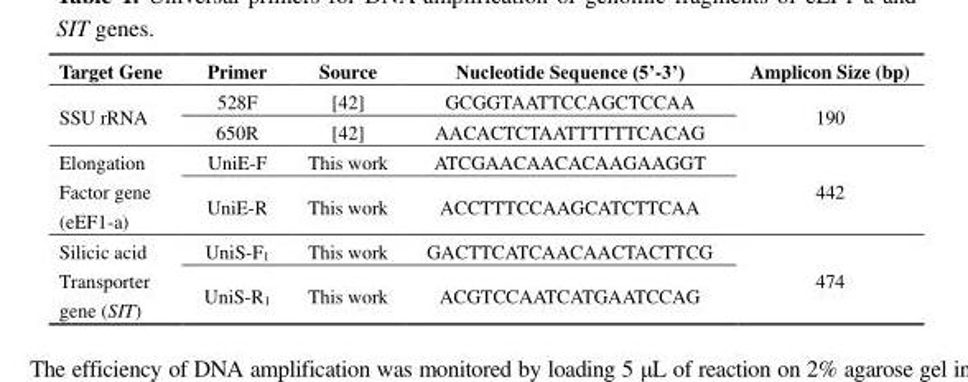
<table><thead><tr><td>Target Gene</td><td>Primer</td><td>Source</td><td>Nucleotide Sequence (5’-3’)</td><td>Amplicon Size (bp)</td></tr></thead><tbody><tr><td rowspan="2">SSU rRNA</td><td>528F</td><td>[42]</td><td>GCGGTAATTCCAGCTCCAA</td><td rowspan="2">190</td></tr><tr><td>650R</td><td>[42]</td><td>AACACTCTAATTTTTTCACAG</td></tr><tr><td rowspan="2">Elongation Factor gene (eEF1-a)</td><td>UniE-F</td><td>This work</td><td>ATCGAACAACACAAGAAGGT</td><td rowspan="2">442</td></tr><tr><td>UniE-R</td><td>This work</td><td>ACCTTTCCAAGCATCTTCAA</td></tr><tr><td rowspan="2">Silicic acid Transporter gene (SIT)</td><td>UniS-F<sub>1</sub></td><td>This work</td><td>GACTTCATCAACAACTACTTCG</td><td rowspan="2">474</td></tr><tr><td>UniS-R<sub>1</sub></td><td>This work</td><td>ACGTCCAATCATGAATCCAG</td></tr></tbody></table>